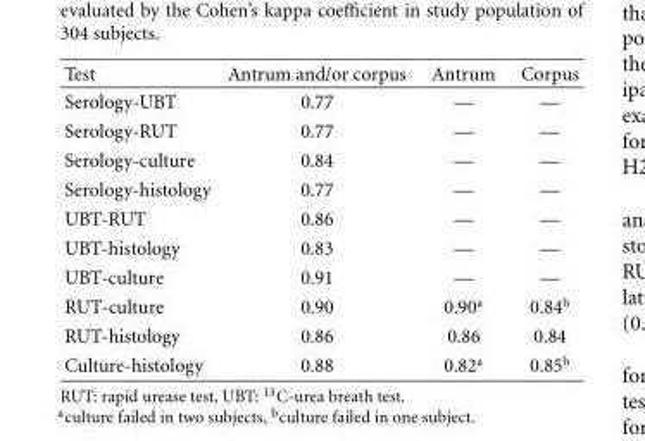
<table><thead><tr><td>Test</td><td>Antrum and/or corpus</td><td>Antrum</td><td>Corpus</td></tr></thead><tbody><tr><td>Serology-UBT</td><td>0.77</td><td>—</td><td>—</td></tr><tr><td>Serology-RUT</td><td>0.77</td><td>—</td><td>—</td></tr><tr><td>Serology-culture</td><td>0.84</td><td>—</td><td>—</td></tr><tr><td>Serology-histology</td><td>0.77</td><td>—</td><td>—</td></tr><tr><td>UBT-RUT</td><td>0.86</td><td>—</td><td>—</td></tr><tr><td>UBT-histology</td><td>0.83</td><td>—</td><td>—</td></tr><tr><td>UBT-culture</td><td>0.91</td><td>—</td><td>—</td></tr><tr><td>RUT-culture</td><td>0.90</td><td>0.90<sup>a</sup></td><td>0.84<sup>b</sup></td></tr><tr><td>RUT-histology</td><td>0.86</td><td>0.86</td><td>0.84</td></tr><tr><td>Culture-histology</td><td>0.88</td><td>0.82<sup>a</sup></td><td>0.85<sup>b</sup></td></tr></tbody></table>